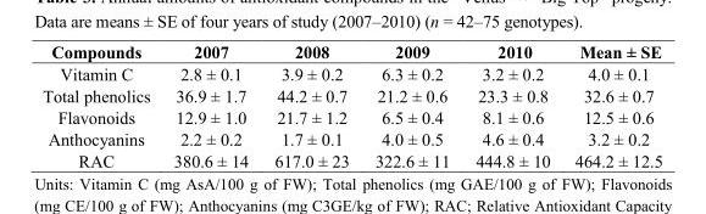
<table><thead><tr><td>Compounds</td><td>2007</td><td>2008</td><td>2009</td><td>2010</td><td>Mean ± SE</td></tr></thead><tbody><tr><td>Vitamin C</td><td>2.8 ± 0.1</td><td>3.9 ± 0.2</td><td>6.3 ± 0.2</td><td>3.2 ± 0.2</td><td>4.0 ± 0.1</td></tr><tr><td>Total phenolics</td><td>36.9 ± 1.7</td><td>44.2 ± 0.7</td><td>21.2 ± 0.6</td><td>23.3 ± 0.8</td><td>32.6 ± 0.7</td></tr><tr><td>Flavonoids</td><td>12.9 ± 1.0</td><td>21.7 ± 1.2</td><td>6.5 ± 0.4</td><td>8.1 ± 0.6</td><td>12.5 ± 0.6</td></tr><tr><td>Anthocyanins</td><td>2.2 ± 0.2</td><td>1.7 ± 0.1</td><td>4.0 ± 0.5</td><td>4.6 ± 0.4</td><td>3.2 ± 0.2</td></tr><tr><td>RAC</td><td>380.6 ± 14</td><td>617.0 ± 23</td><td>322.6 ± 11</td><td>444.8 ± 10</td><td>464.2 ± 12.5</td></tr></tbody></table>